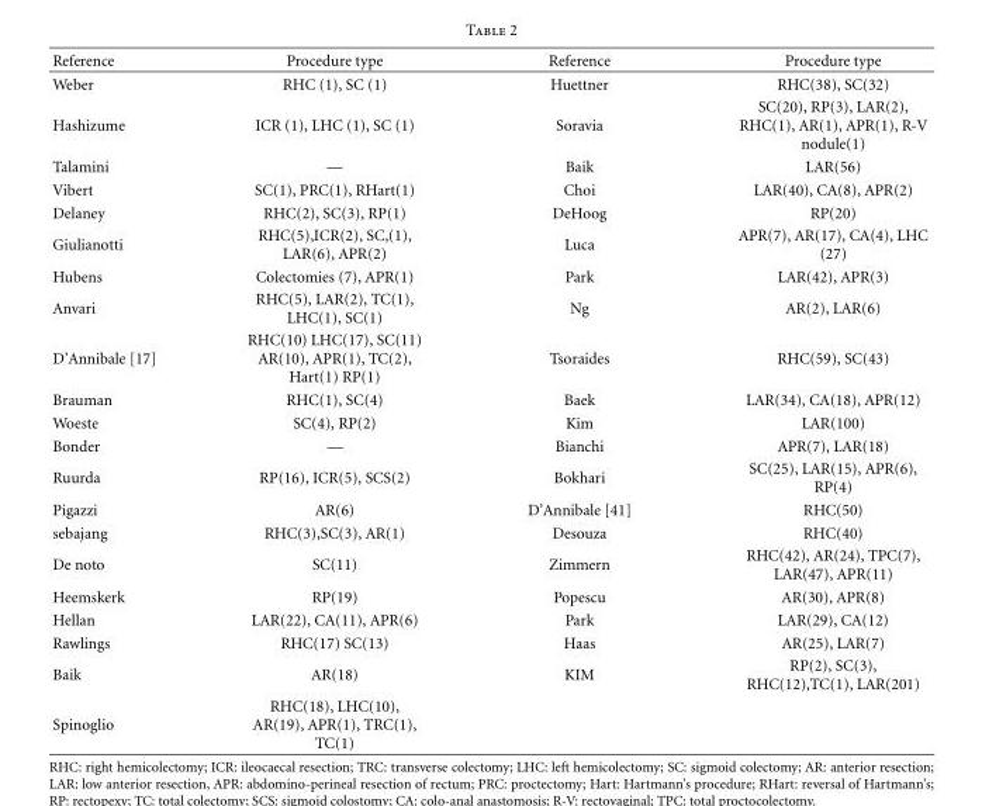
<table><thead><tr><td>Reference</td><td>Procedure type</td><td>Reference</td><td>Procedure type</td></tr></thead><tbody><tr><td>Weber</td><td>RHC (1), SC (1)</td><td>Huettner</td><td>RHC(38), SC(32)</td></tr><tr><td>Hashizume</td><td>ICR (1), LHC (1), SC (1)</td><td>Soravia</td><td>SC(20), RP(3), LAR(2), RHC(1), AR(1), APR(1), R-V nodule(1)</td></tr><tr><td>Talamini</td><td>—</td><td>Baik</td><td>LAR(56)</td></tr><tr><td>Vibert</td><td>SC(1), PRC(1), RHart(1)</td><td>Choi</td><td>LAR(40), CA(8), APR(2)</td></tr><tr><td>Delaney</td><td>RHC(2), SC(3), RP(1)</td><td>DeHoog</td><td>RP(20)</td></tr><tr><td>Giulianotti</td><td>RHC(5),ICR(2), SC,(1), LAR(6), APR(2)</td><td>Luca</td><td>APR(7), AR(17), CA(4), LHC (27)</td></tr><tr><td>Hubens</td><td>Colectomies (7), APR(1)</td><td>Park</td><td>LAR(42), APR(3)</td></tr><tr><td>Anvari</td><td>RHC(5), LAR(2), TC(1), LHC(1), SC(1)</td><td>Ng</td><td>AR(2), LAR(6)</td></tr><tr><td>D’Annibale [17]</td><td>RHC(10) LHC(17), SC(11) AR(10), APR(1), TC(2), Hart(1) RP(1)</td><td>Tsoraides</td><td>RHC(59), SC(43)</td></tr><tr><td>Brauman</td><td>RHC(1), SC(4)</td><td>Baek</td><td>LAR(34), CA(18), APR(12)</td></tr><tr><td>Woeste</td><td>SC(4), RP(2)</td><td>Kim</td><td>LAR(100)</td></tr><tr><td>Bonder</td><td>—</td><td>Bianchi</td><td>APR(7), LAR(18)</td></tr><tr><td>Ruurda</td><td>RP(16), ICR(5), SCS(2)</td><td>Bokhari</td><td>SC(25), LAR(15), APR(6), RP(4)</td></tr><tr><td>Pigazzi</td><td>AR(6)</td><td>D’Annibale [41]</td><td>RHC(50)</td></tr><tr><td>sebajang</td><td>RHC(3),SC(3), AR(1)</td><td>Desouza</td><td>RHC(40)</td></tr><tr><td>De noto</td><td>SC(11)</td><td>Zimmern</td><td>RHC(42), AR(24), TPC(7), LAR(47), APR(11)</td></tr><tr><td>Heemskerk</td><td>RP(19)</td><td>Popescu</td><td>AR(30), APR(8)</td></tr><tr><td>Hellan</td><td>LAR(22), CA(11), APR(6)</td><td>Park</td><td>LAR(29), CA(12)</td></tr><tr><td>Rawlings</td><td>RHC(17) SC(13)</td><td>Haas</td><td>AR(25), LAR(7)</td></tr><tr><td>Baik</td><td>AR(18)</td><td>KIM</td><td>RP(2), SC(3), RHC(12),TC(1), LAR(201)</td></tr><tr><td>Spinoglio</td><td>RHC(18), LHC(10), AR(19), APR(1), TRC(1), TC(1)</td><td></td><td></td></tr></tbody></table>